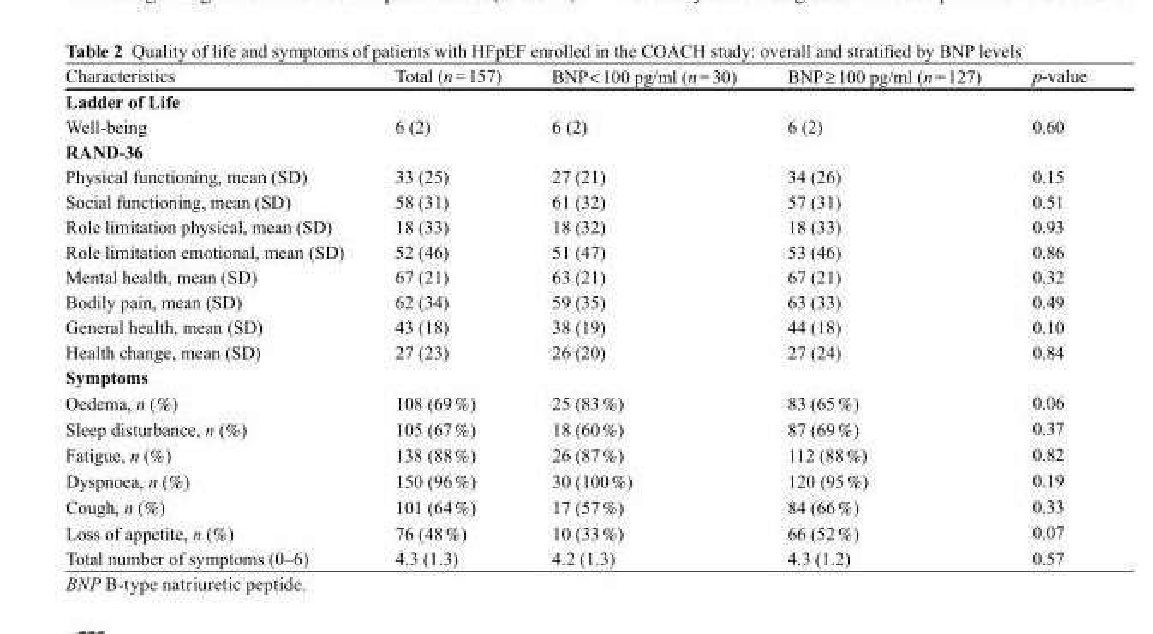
<table><thead><tr><td>Characteristics</td><td>Total (n = 157)</td><td>BNP &lt; 100 pg/ml (n = 30)</td><td>BNP ≥ 100 pg/ml (n = 127)</td><td>p-value</td></tr></thead><tbody><tr><td colspan="5">Ladder of Life</td></tr><tr><td>Well-being</td><td>6 (2)</td><td>6 (2)</td><td>6 (2)</td><td>0.60</td></tr><tr><td colspan="5">RAND-36</td></tr><tr><td>Physical functioning, mean (SD)</td><td>33 (25)</td><td>27 (21)</td><td>34 (26)</td><td>0.15</td></tr><tr><td>Social functioning, mean (SD)</td><td>58 (31)</td><td>61 (32)</td><td>57 (31)</td><td>0.51</td></tr><tr><td>Role limitation physical, mean (SD)</td><td>18 (33)</td><td>18 (32)</td><td>18 (33)</td><td>0.93</td></tr><tr><td>Role limitation emotional, mean (SD)</td><td>52 (46)</td><td>51 (47)</td><td>53 (46)</td><td>0.86</td></tr><tr><td>Mental health, mean (SD)</td><td>67 (21)</td><td>63 (21)</td><td>67 (21)</td><td>0.32</td></tr><tr><td>Bodily pain, mean (SD)</td><td>62 (34)</td><td>59 (35)</td><td>63 (33)</td><td>0.49</td></tr><tr><td>General health, mean (SD)</td><td>43 (18)</td><td>38 (19)</td><td>44 (18)</td><td>0.10</td></tr><tr><td>Health change, mean (SD)</td><td>27 (23)</td><td>26 (20)</td><td>27 (24)</td><td>0.84</td></tr><tr><td colspan="5">Symptoms</td></tr><tr><td>Oedema, n (%)</td><td>108 (69 %)</td><td>25 (83 %)</td><td>83 (65 %)</td><td>0.06</td></tr><tr><td>Sleep disturbance, n (%)</td><td>105 (67 %)</td><td>18 (60 %)</td><td>87 (69 %)</td><td>0.37</td></tr><tr><td>Fatigue, n (%)</td><td>138 (88 %)</td><td>26 (87 %)</td><td>112 (88 %)</td><td>0.82</td></tr><tr><td>Dyspnoea, n (%)</td><td>150 (96 %)</td><td>30 (100 %)</td><td>120 (95 %)</td><td>0.19</td></tr><tr><td>Cough, n (%)</td><td>101 (64 %)</td><td>17 (57 %)</td><td>84 (66 %)</td><td>0.33</td></tr><tr><td>Loss of appetite, n (%)</td><td>76 (48 %)</td><td>10 (33 %)</td><td>66 (52 %)</td><td>0.07</td></tr><tr><td>Total number of symptoms (0–6)</td><td>4.3 (1.3)</td><td>4.2 (1.3)</td><td>4.3 (1.2)</td><td>0.57</td></tr></tbody></table>